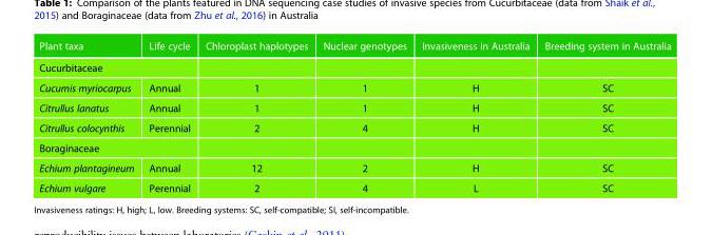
<table><thead><tr><td>Plant taxa</td><td>Life cycle</td><td>Chloroplast haplotypes</td><td>Nuclear genotypes</td><td>Invasiveness in Australia</td><td>Breeding system in Australia</td></tr></thead><tbody><tr><td colspan="6">Cucurbitaceae</td></tr><tr><td>Cucumis myriocarpus</td><td>Annual</td><td>1</td><td>1</td><td>H</td><td>SC</td></tr><tr><td>Citrullus lanatus</td><td>Annual</td><td>1</td><td>1</td><td>H</td><td>SC</td></tr><tr><td>Citrullus colocynthis</td><td>Perennial</td><td>2</td><td>4</td><td>H</td><td>SC</td></tr><tr><td colspan="6">Boraginaceae</td></tr><tr><td>Echium plantagineum</td><td>Annual</td><td>12</td><td>2</td><td>H</td><td>SC</td></tr><tr><td>Echium vulgare</td><td>Perennial</td><td>2</td><td>4</td><td>L</td><td>SC</td></tr></tbody></table>